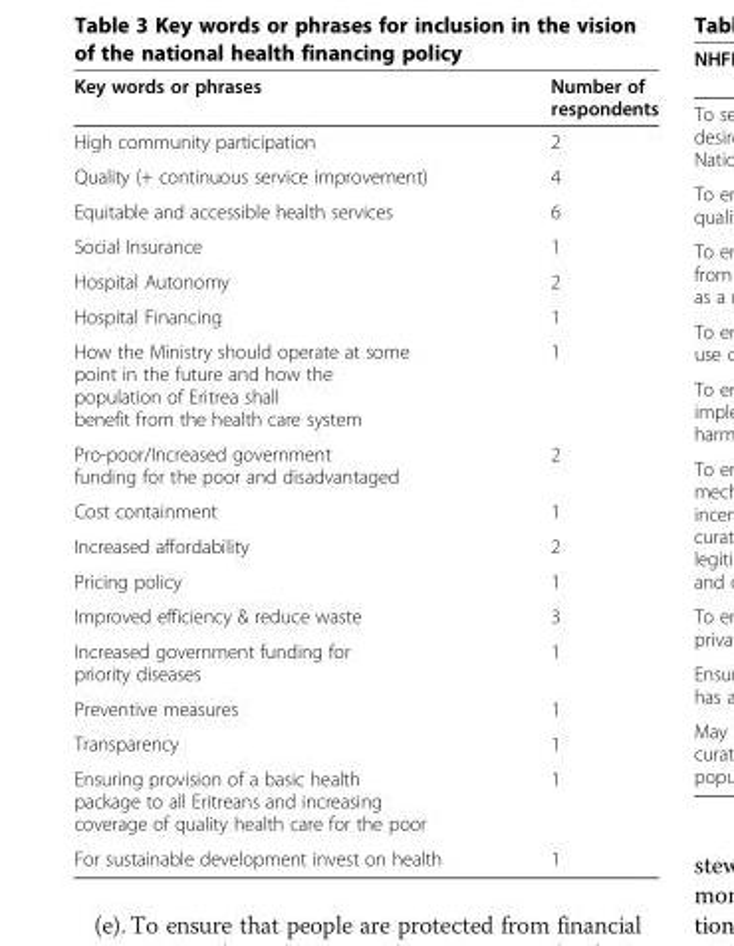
<table><thead><tr><td>Key words or phrases</td><td>Number of respondents</td></tr></thead><tbody><tr><td>High community participation</td><td>2</td></tr><tr><td>Quality (+ continuous service improvement)</td><td>4</td></tr><tr><td>Equitable and accessible health services</td><td>6</td></tr><tr><td>Social Insurance</td><td>1</td></tr><tr><td>Hospital Autonomy</td><td>2</td></tr><tr><td>Hospital Financing</td><td>1</td></tr><tr><td>How the Ministry should operate at some point in the future and how the population of Eritrea shall benefit from the health care system</td><td>1</td></tr><tr><td>Pro-poor/Increased government funding for the poor and disadvantaged</td><td>2</td></tr><tr><td>Cost containment</td><td>1</td></tr><tr><td>Increased affordability</td><td>2</td></tr><tr><td>Pricing policy</td><td>1</td></tr><tr><td>Improved efficiency &amp; reduce waste</td><td>3</td></tr><tr><td>Increased government funding for priority diseases</td><td>1</td></tr><tr><td>Preventive measures</td><td>1</td></tr><tr><td>Transparency</td><td>1</td></tr><tr><td>Ensuring provision of a basic health package to all Eritreans and increasing coverage of quality health care for the poor</td><td>1</td></tr><tr><td>For sustainable development invest on health</td><td>1</td></tr></tbody></table>